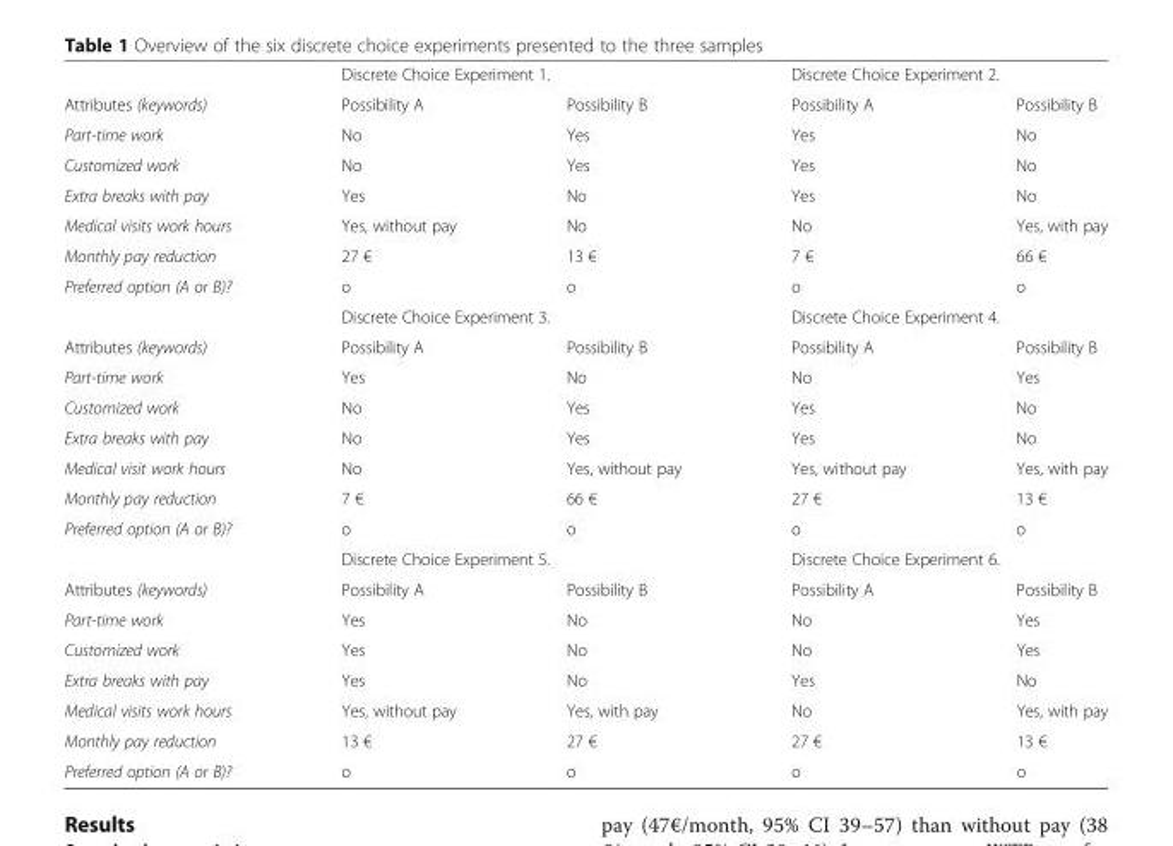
<table><thead><tr><td rowspan="2">Attributes (keywords)</td><td colspan="2">Discrete Choice Experiment 1.</td><td colspan="2">Discrete Choice Experiment 2.</td></tr><tr><td>Possibility A</td><td>Possibility B</td><td>Possibility A</td><td>Possibility B</td></tr></thead><tbody><tr><td>Part-time work</td><td>No</td><td>Yes</td><td>Yes</td><td>No</td></tr><tr><td>Customized work</td><td>No</td><td>Yes</td><td>Yes</td><td>No</td></tr><tr><td>Extra breaks with pay</td><td>Yes</td><td>No</td><td>Yes</td><td>No</td></tr><tr><td>Medical visits work hours</td><td>Yes, without pay</td><td>No</td><td>No</td><td>Yes, with pay</td></tr><tr><td>Monthly pay reduction</td><td>27 €</td><td>13 €</td><td>7 €</td><td>66 €</td></tr><tr><td rowspan="2">Preferred option (A or B)?</td><td>о</td><td>о</td><td>о</td><td>о</td></tr><tr><td colspan="2">Discrete Choice Experiment 3.</td><td colspan="2">Discrete Choice Experiment 4.</td></tr><tr><td>Attributes (keywords)</td><td>Possibility A</td><td>Possibility B</td><td>Possibility A</td><td>Possibility B</td></tr><tr><td>Part-time work</td><td>Yes</td><td>No</td><td>No</td><td>Yes</td></tr><tr><td>Customized work</td><td>No</td><td>Yes</td><td>Yes</td><td>No</td></tr><tr><td>Extra breaks with pay</td><td>No</td><td>Yes</td><td>Yes</td><td>No</td></tr><tr><td>Medical visit work hours</td><td>No</td><td>Yes, without pay</td><td>Yes, without pay</td><td>Yes, with pay</td></tr><tr><td>Monthly pay reduction</td><td>7 €</td><td>66 €</td><td>27 €</td><td>13 €</td></tr><tr><td rowspan="2">Preferred option (A or B)?</td><td>о</td><td>о</td><td>о</td><td>о</td></tr><tr><td colspan="2">Discrete Choice Experiment 5.</td><td colspan="2">Discrete Choice Experiment 6.</td></tr><tr><td>Attributes (keywords)</td><td>Possibility A</td><td>Possibility B</td><td>Possibility A</td><td>Possibility B</td></tr><tr><td>Part-time work</td><td>Yes</td><td>No</td><td>No</td><td>Yes</td></tr><tr><td>Customized work</td><td>Yes</td><td>No</td><td>No</td><td>Yes</td></tr><tr><td>Extra breaks with pay</td><td>Yes</td><td>No</td><td>Yes</td><td>No</td></tr><tr><td>Medical visits work hours</td><td>Yes, without pay</td><td>Yes, with pay</td><td>No</td><td>Yes, with pay</td></tr><tr><td>Monthly pay reduction</td><td>13 €</td><td>27 €</td><td>27 €</td><td>13 €</td></tr><tr><td>Preferred option (A or B)?</td><td>о</td><td>о</td><td>о</td><td>о</td></tr></tbody></table>